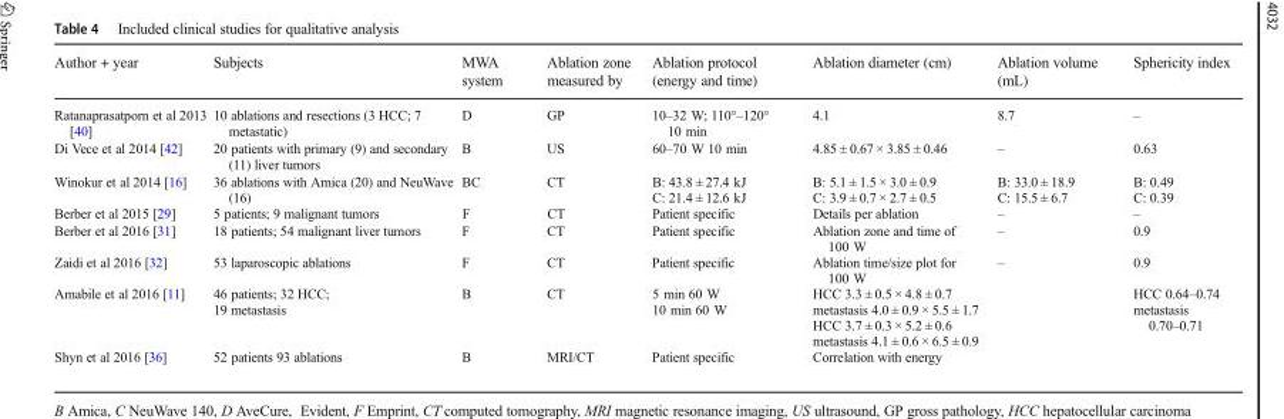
<table><thead><tr><td>Author + year</td><td>Subjects</td><td>MWA system</td><td>Ablation zone measured by</td><td>Ablation protocol (energy and time)</td><td>Ablation diameter (cm)</td><td>Ablation volume (mL)</td><td>Sphericity index</td></tr></thead><tbody><tr><td>Ratanaprasatporn et al 2013 [40]</td><td>10 ablations and resections (3 HCC; 7 metastatic)</td><td>D</td><td>GP</td><td>10–32 W; 110°–120° 10 min</td><td>4.1</td><td>8.7</td><td>–</td></tr><tr><td>Di Vece et al 2014 [42]</td><td>20 patients with primary (9) and secondary (11) liver tumors</td><td>B</td><td>US</td><td>60–70 W 10 min</td><td>4.85 ± 0.67 × 3.85 ± 0.46</td><td>–</td><td>0.63</td></tr><tr><td>Winokur et al 2014 [16]</td><td>36 ablations with Amica (20) and NeuWave (16)</td><td>BC</td><td>CT</td><td>B: 43.8 ± 27.4 kJ C: 21.4 ± 12.6 kJ</td><td>B: 5.1 ± 1.5 × 3.0 ± 0.9 C: 3.9 ± 0.7 × 2.7 ± 0.5</td><td>B: 33.0 ± 18.9 C: 15.5 ± 6.7</td><td>B: 0.49 C: 0.39</td></tr><tr><td>Berber et al 2015 [29]</td><td>5 patients; 9 malignant tumors</td><td>F</td><td>CT</td><td>Patient specific</td><td>Details per ablation</td><td>–</td><td>–</td></tr><tr><td>Berber et al 2016 [31]</td><td>18 patients; 54 malignant liver tumors</td><td>F</td><td>CT</td><td>Patient specific</td><td>Ablation zone and time of 100 W</td><td>–</td><td>0.9</td></tr><tr><td>Zaidi et al 2016 [32]</td><td>53 laparoscopic ablations</td><td>F</td><td>CT</td><td>Patient specific</td><td>Ablation time/size plot for 100 W</td><td>–</td><td>0.9</td></tr><tr><td>Amabile et al 2016 [11]</td><td>46 patients; 32 HCC; 19 metastasis</td><td>B</td><td>CT</td><td>5 min 60 W 10 min 60 W</td><td>HCC 3.3 ± 0.5 × 4.8 ± 0.7 metastasis 4.0 ± 0.9 × 5.5 ± 1.7 HCC 3.7 ± 0.3 × 5.2 ± 0.6 metastasis 4.1 ± 0.6 × 6.5 ± 0.9</td><td></td><td>HCC 0.64–0.74 metastasis 0.70–0.71</td></tr><tr><td>Shyn et al 2016 [36]</td><td>52 patients 93 ablations</td><td>B</td><td>MRI/CT</td><td>Patient specific</td><td>Correlation with energy</td><td></td><td></td></tr></tbody></table>